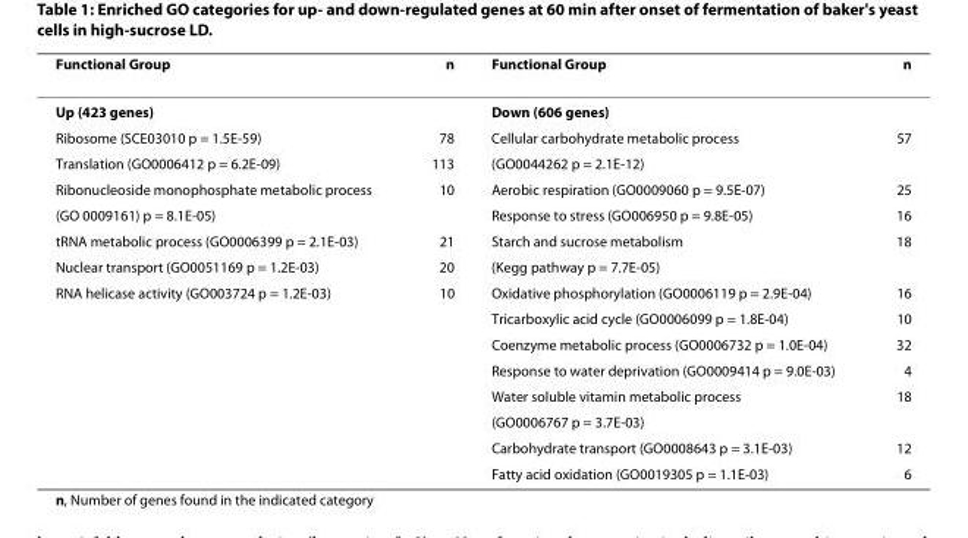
<table><thead><tr><td>Functional Group</td><td>n</td><td>Functional Group</td><td>n</td></tr></thead><tbody><tr><td>Up (423 genes)</td><td></td><td>Down (606 genes)</td><td></td></tr><tr><td>Ribosome (SCE03010 p = 1.5E-59)</td><td>78</td><td>Cellular carbohydrate metabolic process</td><td>57</td></tr><tr><td>Translation (GO0006412 p = 6.2E-09)</td><td>113</td><td>(GO0044262 p = 2.1E-12)</td><td></td></tr><tr><td>Ribonucleoside monophosphate metabolic process</td><td>10</td><td>Aerobic respiration (GO0009060 p = 9.5E-07)</td><td>25</td></tr><tr><td>(GO 0009161) p = 8.1E-05)</td><td></td><td>Response to stress (GO006950 p = 9.8E-05)</td><td>16</td></tr><tr><td>tRNA metabolic process (GO0006399 p = 2.1E-03)</td><td>21</td><td>Starch and sucrose metabolism</td><td>18</td></tr><tr><td>Nuclear transport (GO0051169 p = 1.2E-03)</td><td>20</td><td>(Kegg pathway p = 7.7E-05)</td><td></td></tr><tr><td rowspan="8">RNA helicase activity (GO003724 p = 1.2E-03)</td><td>10</td><td>Oxidative phosphorylation (GO0006119 p = 2.9E-04)</td><td>16</td></tr><tr><td></td><td>Tricarboxylic acid cycle (GO0006099 p = 1.8E-04)</td><td>10</td></tr><tr><td></td><td>Coenzyme metabolic process (GO0006732 p = 1.0E-04)</td><td>32</td></tr><tr><td></td><td>Response to water deprivation (GO0009414 p = 9.0E-03)</td><td>4</td></tr><tr><td></td><td>Water soluble vitamin metabolic process</td><td>18</td></tr><tr><td></td><td>(GO0006767 p = 3.7E-03)</td><td></td></tr><tr><td></td><td>Carbohydrate transport (GO0008643 p = 3.1E-03)</td><td>12</td></tr><tr><td></td><td>Fatty acid oxidation (GO0019305 p = 1.1E-03)</td><td>6</td></tr></tbody></table>